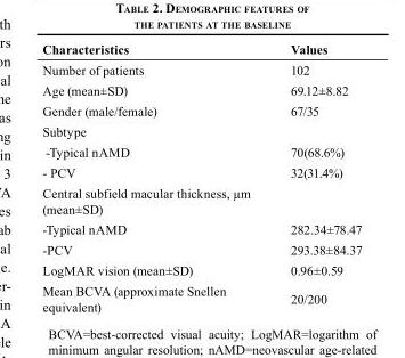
<table><thead><tr><td>Characteristics</td><td>Values</td></tr></thead><tbody><tr><td>Number of patients</td><td>102</td></tr><tr><td>Age (mean±SD)</td><td>69.12±8.82</td></tr><tr><td>Gender (male/female)</td><td>67/35</td></tr><tr><td colspan="2">Subtype</td></tr><tr><td>-Typical nAMD</td><td>70(68.6%)</td></tr><tr><td>- PCV</td><td>32(31.4%)</td></tr><tr><td colspan="2">Central subfield macular thickness, µm (mean±SD)</td></tr><tr><td>-Typical nAMD</td><td>282.34±78.47</td></tr><tr><td>-PCV</td><td>293.38±84.37</td></tr><tr><td>LogMAR vision (mean±SD)</td><td>0.96±0.59</td></tr><tr><td>Mean BCVA (approximate Snellen equivalent)</td><td>20/200</td></tr></tbody></table>